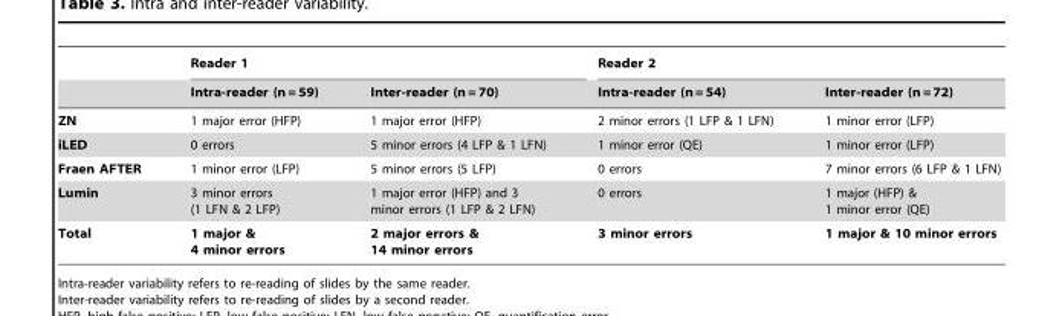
<table><thead><tr><td rowspan="2"></td><td colspan="2">Reader 1</td><td colspan="2">Reader 2</td></tr><tr><td>Intra-reader (n = 59)</td><td>Inter-reader (n = 70)</td><td>Intra-reader (n = 54)</td><td>Inter-reader (n = 72)</td></tr></thead><tbody><tr><td>ZN</td><td>1 major error (HFP)</td><td>1 major error (HFP)</td><td>2 minor errors (1 LFP &amp; 1 LFN)</td><td>1 minor error (LFP)</td></tr><tr><td>iLED</td><td>0 errors</td><td>5 minor errors (4 LFP &amp; 1 LFN)</td><td>1 minor error (QE)</td><td>1 minor error (LFP)</td></tr><tr><td>Fraen AFTER</td><td>1 minor error (LFP)</td><td>5 minor errors (5 LFP)</td><td>0 errors</td><td>7 minor errors (6 LFP &amp; 1 LFN)</td></tr><tr><td>Lumin</td><td>3 minor errors (1 LFN &amp; 2 LFP)</td><td>1 major error (HFP) and 3 minor errors (1 LFP &amp; 2 LFN)</td><td>0 errors</td><td>1 major (HFP) &amp; 1 minor error (QE)</td></tr><tr><td>Total</td><td>1 major &amp; 4 minor errors</td><td>2 major errors &amp; 14 minor errors</td><td>3 minor errors</td><td>1 major &amp; 10 minor errors</td></tr></tbody></table>